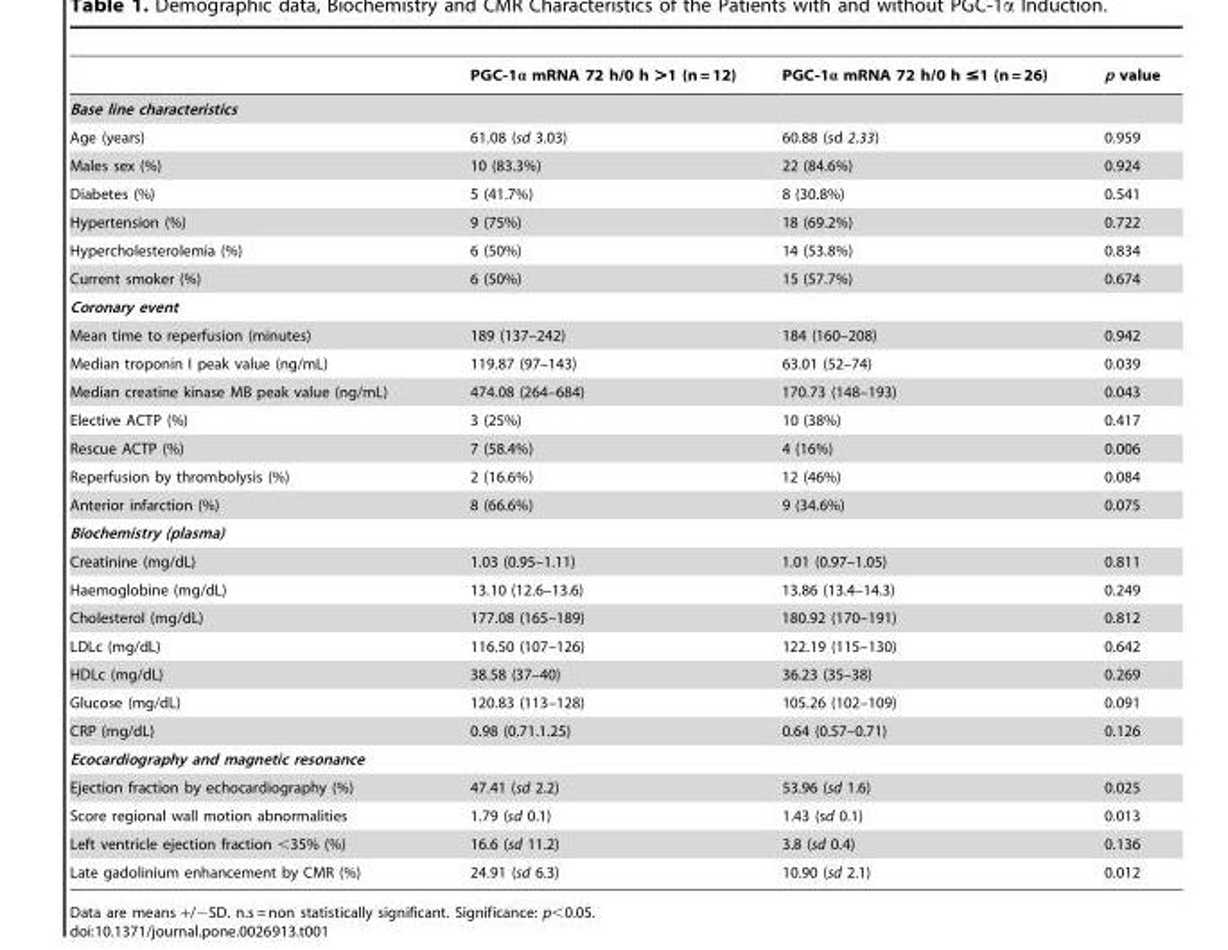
<table><thead><tr><td></td><td>PGC-1α mRNA 72 h/0 h &gt;1 (n = 12)</td><td>PGC-1α mRNA 72 h/0 h ≤1 (n = 26)</td><td>p value</td></tr></thead><tbody><tr><td colspan="4">Base line characteristics</td></tr><tr><td>Age (years)</td><td>61.08 (sd 3.03)</td><td>60.88 (sd 2.33)</td><td>0.959</td></tr><tr><td>Males sex (%)</td><td>10 (83.3%)</td><td>22 (84.6%)</td><td>0.924</td></tr><tr><td>Diabetes (%)</td><td>5 (41.7%)</td><td>8 (30.8%)</td><td>0.541</td></tr><tr><td>Hypertension (%)</td><td>9 (75%)</td><td>18 (69.2%)</td><td>0.722</td></tr><tr><td>Hypercholesterolemia (%)</td><td>6 (50%)</td><td>14 (53.8%)</td><td>0.834</td></tr><tr><td>Current smoker (%)</td><td>6 (50%)</td><td>15 (57.7%)</td><td>0.674</td></tr><tr><td colspan="4">Coronary event</td></tr><tr><td>Mean time to reperfusion (minutes)</td><td>189 (137–242)</td><td>184 (160–208)</td><td>0.942</td></tr><tr><td>Median troponin I peak value (ng/mL)</td><td>119.87 (97–143)</td><td>63.01 (52–74)</td><td>0.039</td></tr><tr><td>Median creatine kinase MB peak value (ng/mL)</td><td>474.08 (264–684)</td><td>170.73 (148–193)</td><td>0.043</td></tr><tr><td>Elective ACTP (%)</td><td>3 (25%)</td><td>10 (38%)</td><td>0.417</td></tr><tr><td>Rescue ACTP (%)</td><td>7 (58.4%)</td><td>4 (16%)</td><td>0.006</td></tr><tr><td>Reperfusion by thrombolysis (%)</td><td>2 (16.6%)</td><td>12 (46%)</td><td>0.084</td></tr><tr><td>Anterior infarction (%)</td><td>8 (66.6%)</td><td>9 (34.6%)</td><td>0.075</td></tr><tr><td colspan="4">Biochemistry (plasma)</td></tr><tr><td>Creatinine (mg/dL)</td><td>1.03 (0.95–1.11)</td><td>1.01 (0.97–1.05)</td><td>0.811</td></tr><tr><td>Haemoglobine (mg/dL)</td><td>13.10 (12.6–13.6)</td><td>13.86 (13.4–14.3)</td><td>0.249</td></tr><tr><td>Cholesterol (mg/dL)</td><td>177.08 (165–189)</td><td>180.92 (170–191)</td><td>0.812</td></tr><tr><td>LDLc (mg/dL)</td><td>116.50 (107–126)</td><td>122.19 (115–130)</td><td>0.642</td></tr><tr><td>HDLc (mg/dL)</td><td>38.58 (37–40)</td><td>36.23 (35–38)</td><td>0.269</td></tr><tr><td>Glucose (mg/dL)</td><td>120.83 (113–128)</td><td>105.26 (102–109)</td><td>0.091</td></tr><tr><td>CRP (mg/dL)</td><td>0.98 (0.71.1.25)</td><td>0.64 (0.57–0.71)</td><td>0.126</td></tr><tr><td colspan="4">Ecocardiography and magnetic resonance</td></tr><tr><td>Ejection fraction by echocardiography (%)</td><td>47.41 (sd 2.2)</td><td>53.96 (sd 1.6)</td><td>0.025</td></tr><tr><td>Score regional wall motion abnormalities</td><td>1.79 (sd 0.1)</td><td>1.43 (sd 0.1)</td><td>0.013</td></tr><tr><td>Left ventricle ejection fraction &lt;35% (%)</td><td>16.6 (sd 11.2)</td><td>3.8 (sd 0.4)</td><td>0.136</td></tr><tr><td>Late gadolinium enhancement by CMR (%)</td><td>24.91 (sd 6.3)</td><td>10.90 (sd 2.1)</td><td>0.012</td></tr></tbody></table>